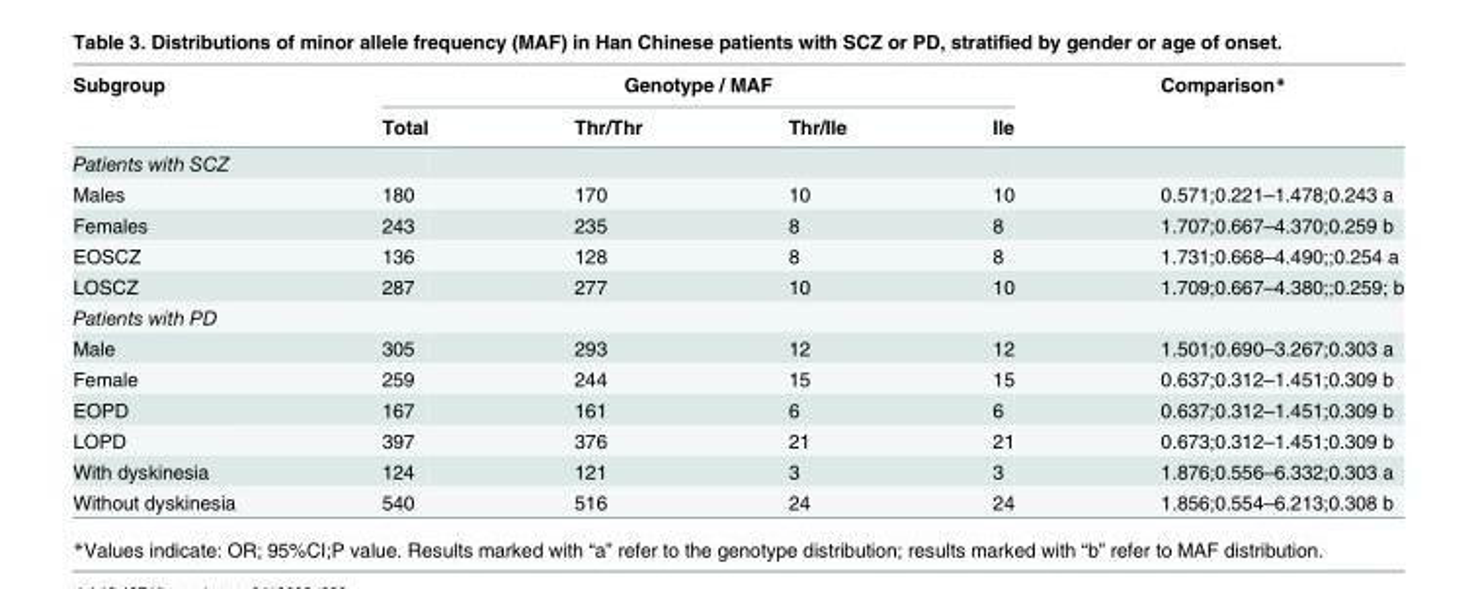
<table><thead><tr><td rowspan="2">Subgroup</td><td colspan="4">Genotype / MAF</td><td rowspan="2">Comparison*</td></tr><tr><td>Total</td><td>Thr/Thr</td><td>Thr/Ile</td><td>Ile</td></tr></thead><tbody><tr><td colspan="6">Patients with SCZ</td></tr><tr><td>Males</td><td>180</td><td>170</td><td>10</td><td>10</td><td>0.571;0.221–1.478;0.243 a</td></tr><tr><td>Females</td><td>243</td><td>235</td><td>8</td><td>8</td><td>1.707;0.667–4.370;0.259 b</td></tr><tr><td>EOSCZ</td><td>136</td><td>128</td><td>8</td><td>8</td><td>1.731;0.668–4.490;;0.254 a</td></tr><tr><td>LOSCZ</td><td>287</td><td>277</td><td>10</td><td>10</td><td>1.709;0.667–4.380;;0.259; b</td></tr><tr><td colspan="6">Patients with PD</td></tr><tr><td>Male</td><td>305</td><td>293</td><td>12</td><td>12</td><td>1.501;0.690–3.267;0.303 a</td></tr><tr><td>Female</td><td>259</td><td>244</td><td>15</td><td>15</td><td>0.637;0.312–1.451;0.309 b</td></tr><tr><td>EOPD</td><td>167</td><td>161</td><td>6</td><td>6</td><td>0.637;0.312–1.451;0.309 b</td></tr><tr><td>LOPD</td><td>397</td><td>376</td><td>21</td><td>21</td><td>0.673;0.312–1.451;0.309 b</td></tr><tr><td>With dyskinesia</td><td>124</td><td>121</td><td>3</td><td>3</td><td>1.876;0.556–6.332;0.303 a</td></tr><tr><td>Without dyskinesia</td><td>540</td><td>516</td><td>24</td><td>24</td><td>1.856;0.554–6.213;0.308 b</td></tr></tbody></table>